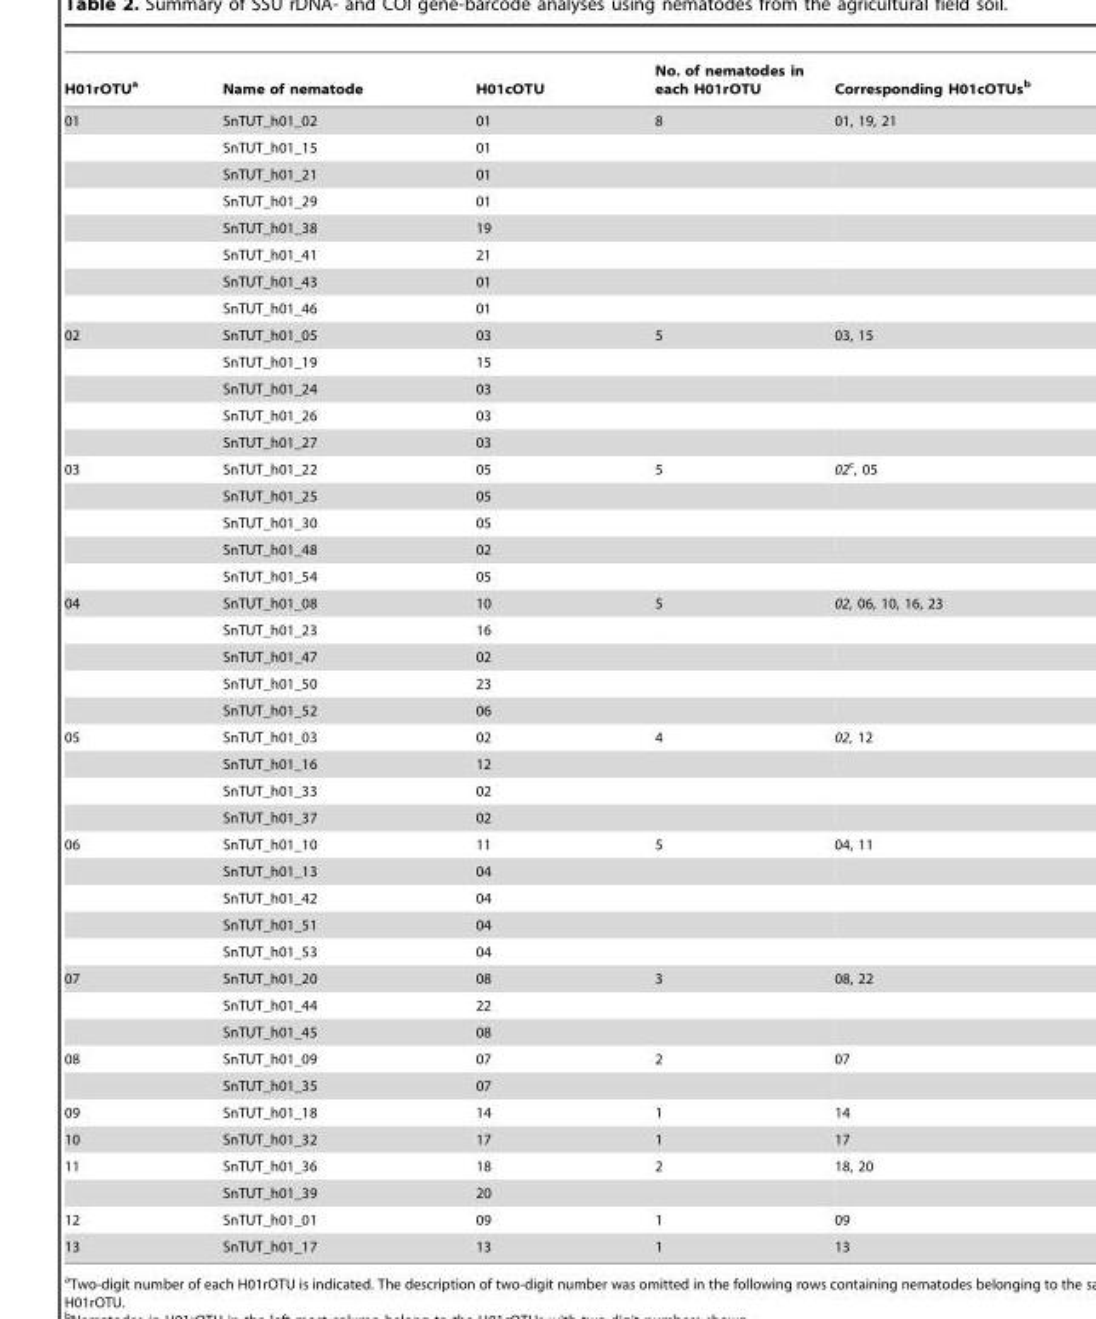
<table><thead><tr><td>H01rOTU<sup>a</sup></td><td>Name of nematode</td><td>H01cOTU</td><td>No. of nematodes in each H01rOTU</td><td>Corresponding H01cOTUs<sup>b</sup></td></tr></thead><tbody><tr><td rowspan="8">01</td><td>SnTUT_h01_02</td><td>01</td><td>8</td><td>01, 19, 21</td></tr><tr><td>SnTUT_h01_15</td><td>01</td><td></td><td></td></tr><tr><td>SnTUT_h01_21</td><td>01</td><td></td><td></td></tr><tr><td>SnTUT_h01_29</td><td>01</td><td></td><td></td></tr><tr><td>SnTUT_h01_38</td><td>19</td><td></td><td></td></tr><tr><td>SnTUT_h01_41</td><td>21</td><td></td><td></td></tr><tr><td>SnTUT_h01_43</td><td>01</td><td></td><td></td></tr><tr><td>SnTUT_h01_46</td><td>01</td><td></td><td></td></tr><tr><td rowspan="5">02</td><td>SnTUT_h01_05</td><td>03</td><td>5</td><td>03, 15</td></tr><tr><td>SnTUT_h01_19</td><td>15</td><td></td><td></td></tr><tr><td>SnTUT_h01_24</td><td>03</td><td></td><td></td></tr><tr><td>SnTUT_h01_26</td><td>03</td><td></td><td></td></tr><tr><td>SnTUT_h01_27</td><td>03</td><td></td><td></td></tr><tr><td rowspan="5">03</td><td>SnTUT_h01_22</td><td>05</td><td>5</td><td>02c, 05</td></tr><tr><td>SnTUT_h01_25</td><td>05</td><td></td><td></td></tr><tr><td>SnTUT_h01_30</td><td>05</td><td></td><td></td></tr><tr><td>SnTUT_h01_48</td><td>02</td><td></td><td></td></tr><tr><td>SnTUT_h01_54</td><td>05</td><td></td><td></td></tr><tr><td rowspan="5">04</td><td>SnTUT_h01_08</td><td>10</td><td>5</td><td>02, 06, 10, 16, 23</td></tr><tr><td>SnTUT_h01_23</td><td>16</td><td></td><td></td></tr><tr><td>SnTUT_h01_47</td><td>02</td><td></td><td></td></tr><tr><td>SnTUT_h01_50</td><td>23</td><td></td><td></td></tr><tr><td>SnTUT_h01_52</td><td>06</td><td></td><td></td></tr><tr><td rowspan="4">05</td><td>SnTUT_h01_03</td><td>02</td><td>4</td><td>02, 12</td></tr><tr><td>SnTUT_h01_16</td><td>12</td><td></td><td></td></tr><tr><td>SnTUT_h01_33</td><td>02</td><td></td><td></td></tr><tr><td>SnTUT_h01_37</td><td>02</td><td></td><td></td></tr><tr><td rowspan="5">06</td><td>SnTUT_h01_10</td><td>11</td><td>5</td><td>04, 11</td></tr><tr><td>SnTUT_h01_13</td><td>04</td><td></td><td></td></tr><tr><td>SnTUT_h01_42</td><td>04</td><td></td><td></td></tr><tr><td>SnTUT_h01_51</td><td>04</td><td></td><td></td></tr><tr><td>SnTUT_h01_53</td><td>04</td><td></td><td></td></tr><tr><td rowspan="3">07</td><td>SnTUT_h01_20</td><td>08</td><td>3</td><td>08, 22</td></tr><tr><td>SnTUT_h01_44</td><td>22</td><td></td><td></td></tr><tr><td>SnTUT_h01_45</td><td>08</td><td></td><td></td></tr><tr><td rowspan="2">08</td><td>SnTUT_h01_09</td><td>07</td><td>2</td><td>07</td></tr><tr><td>SnTUT_h01_35</td><td>07</td><td></td><td></td></tr><tr><td>09</td><td>SnTUT_h01_18</td><td>14</td><td>1</td><td>14</td></tr><tr><td>10</td><td>SnTUT_h01_32</td><td>17</td><td>1</td><td>17</td></tr><tr><td rowspan="2">11</td><td>SnTUT_h01_36</td><td>18</td><td>2</td><td>18, 20</td></tr><tr><td>SnTUT_h01_39</td><td>20</td><td></td><td></td></tr><tr><td>12</td><td>SnTUT_h01_01</td><td>09</td><td>1</td><td>09</td></tr><tr><td>13</td><td>SnTUT_h01_17</td><td>13</td><td>1</td><td>13</td></tr></tbody></table>